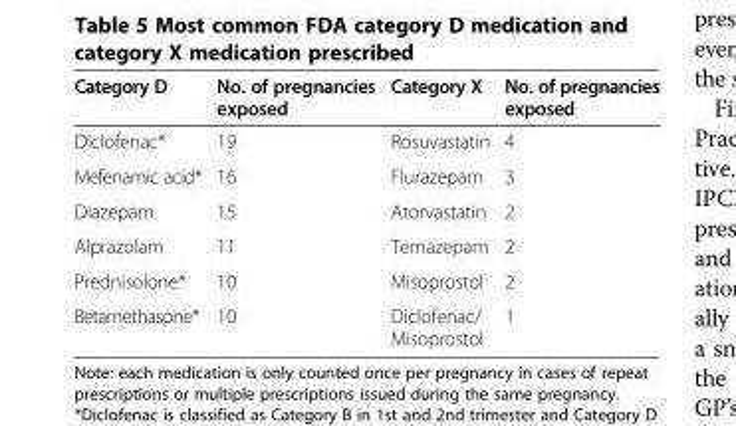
<table><thead><tr><td>Category D</td><td>No. of pregnancies exposed</td><td>Category X</td><td>No. of pregnancies exposed</td></tr></thead><tbody><tr><td>Diclofenac*</td><td>19</td><td>Rosuvastatin</td><td>4</td></tr><tr><td>Mefenamic acid*</td><td>16</td><td>Flurazepam</td><td>3</td></tr><tr><td>Diazepam</td><td>15</td><td>Atorvastatin</td><td>2</td></tr><tr><td>Alprazolam</td><td>11</td><td>Temazepam</td><td>2</td></tr><tr><td>Prednisolone*</td><td>10</td><td>Misoprostol</td><td>2</td></tr><tr><td>Betamethasone*</td><td>10</td><td>Diclofenac/ Misoprostol</td><td>1</td></tr></tbody></table>